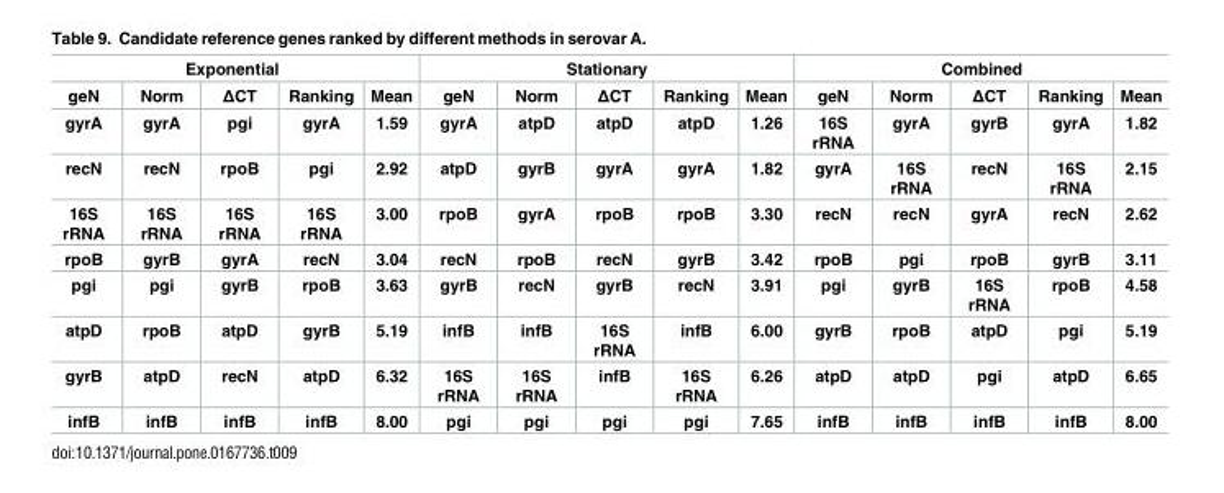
<table><thead><tr><td colspan="5">Exponential</td><td colspan="5">Stationary</td><td colspan="5">Combined</td></tr><tr><td>geN</td><td>Norm</td><td>ΔCT</td><td>Ranking</td><td>Mean</td><td>geN</td><td>Norm</td><td>ΔCT</td><td>Ranking</td><td>Mean</td><td>geN</td><td>Norm</td><td>ΔCT</td><td>Ranking</td><td>Mean</td></tr></thead><tbody><tr><td>gyrA</td><td>gyrA</td><td>pgi</td><td>gyrA</td><td>1.59</td><td>gyrA</td><td>atpD</td><td>atpD</td><td>atpD</td><td>1.26</td><td>16S rRNA</td><td>gyrA</td><td>gyrB</td><td>gyrA</td><td>1.82</td></tr><tr><td>recN</td><td>recN</td><td>rpoB</td><td>pgi</td><td>2.92</td><td>atpD</td><td>gyrB</td><td>gyrA</td><td>gyrA</td><td>1.82</td><td>gyrA</td><td>16S rRNA</td><td>recN</td><td>16S rRNA</td><td>2.15</td></tr><tr><td>16S rRNA</td><td>16S rRNA</td><td>16S rRNA</td><td>16S rRNA</td><td>3.00</td><td>rpoB</td><td>gyrA</td><td>rpoB</td><td>rpoB</td><td>3.30</td><td>recN</td><td>recN</td><td>gyrA</td><td>recN</td><td>2.62</td></tr><tr><td>rpoB</td><td>gyrB</td><td>gyrA</td><td>recN</td><td>3.04</td><td>recN</td><td>rpoB</td><td>recN</td><td>gyrB</td><td>3.42</td><td>rpoB</td><td>pgi</td><td>rpoB</td><td>gyrB</td><td>3.11</td></tr><tr><td>pgi</td><td>pgi</td><td>gyrB</td><td>rpoB</td><td>3.63</td><td>gyrB</td><td>recN</td><td>gyrB</td><td>recN</td><td>3.91</td><td>pgi</td><td>gyrB</td><td>16S rRNA</td><td>rpoB</td><td>4.58</td></tr><tr><td>atpD</td><td>rpoB</td><td>atpD</td><td>gyrB</td><td>5.19</td><td>infB</td><td>infB</td><td>16S rRNA</td><td>infB</td><td>6.00</td><td>gyrB</td><td>rpoB</td><td>atpD</td><td>pgi</td><td>5.19</td></tr><tr><td>gyrB</td><td>atpD</td><td>recN</td><td>atpD</td><td>6.32</td><td>16S rRNA</td><td>16S rRNA</td><td>infB</td><td>16S rRNA</td><td>6.26</td><td>atpD</td><td>atpD</td><td>pgi</td><td>atpD</td><td>6.65</td></tr><tr><td>infB</td><td>infB</td><td>infB</td><td>infB</td><td>8.00</td><td>pgi</td><td>pgi</td><td>pgi</td><td>pgi</td><td>7.65</td><td>infB</td><td>infB</td><td>infB</td><td>infB</td><td>8.00</td></tr></tbody></table>